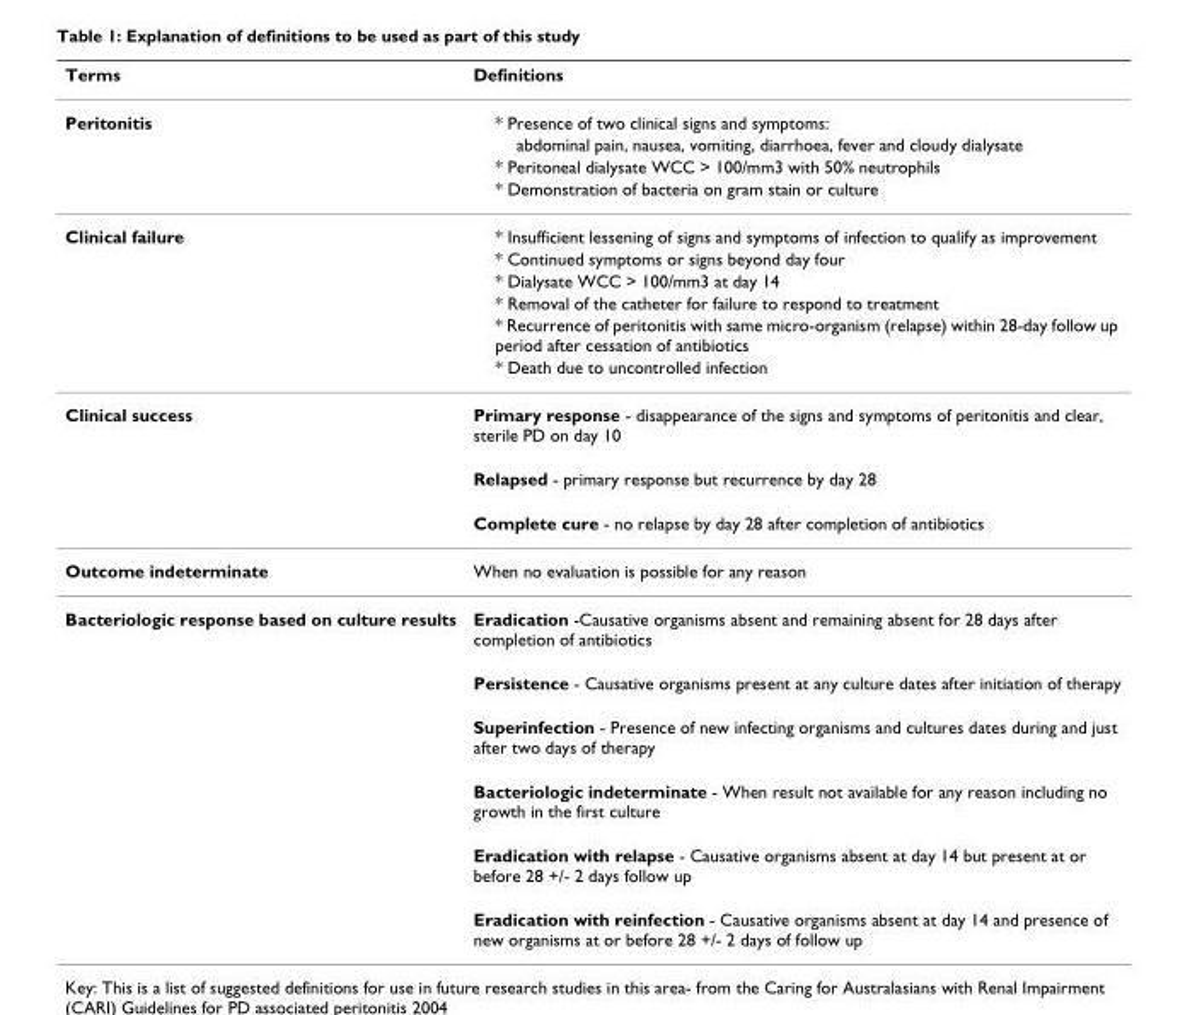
<table><thead><tr><td>Terms</td><td>Definitions</td></tr></thead><tbody><tr><td rowspan="4">Peritonitis</td><td>* Presence of two clinical signs and symptoms:</td></tr><tr><td>abdominal pain, nausea, vomiting, diarrhoea, fever and cloudy dialysate</td></tr><tr><td>* Peritoneal dialysate WCC &gt; 100/mm3 with 50% neutrophils</td></tr><tr><td>* Demonstration of bacteria on gram stain or culture</td></tr><tr><td rowspan="6">Clinical failure</td><td>* Insufficient lessening of signs and symptoms of infection to qualify as improvement</td></tr><tr><td>* Continued symptoms or signs beyond day four</td></tr><tr><td>* Dialysate WCC &gt; 100/mm3 at day 14</td></tr><tr><td>* Removal of the catheter for failure to respond to treatment</td></tr><tr><td>* Recurrence of peritonitis with same micro-organism (relapse) within 28-day follow up period after cessation of antibiotics</td></tr><tr><td>* Death due to uncontrolled infection</td></tr><tr><td rowspan="3">Clinical success</td><td>Primary response - disappearance of the signs and symptoms of peritonitis and clear, sterile PD on day 10</td></tr><tr><td>Relapsed - primary response but recurrence by day 28</td></tr><tr><td>Complete cure - no relapse by day 28 after completion of antibiotics</td></tr><tr><td>Outcome indeterminate</td><td>When no evaluation is possible for any reason</td></tr><tr><td rowspan="6">Bacteriologic response based on culture results</td><td>Eradication -Causative organisms absent and remaining absent for 28 days after completion of antibiotics</td></tr><tr><td>Persistence - Causative organisms present at any culture dates after initiation of therapy</td></tr><tr><td>Superinfection - Presence of new infecting organisms and cultures dates during and just after two days of therapy</td></tr><tr><td>Bacteriologic indeterminate - When result not available for any reason including no growth in the first culture</td></tr><tr><td>Eradication with relapse - Causative organisms absent at day 14 but present at or before 28 +/- 2 days follow up</td></tr><tr><td>Eradication with reinfection - Causative organisms absent at day 14 and presence of new organisms at or before 28 +/- 2 days of follow up</td></tr></tbody></table>